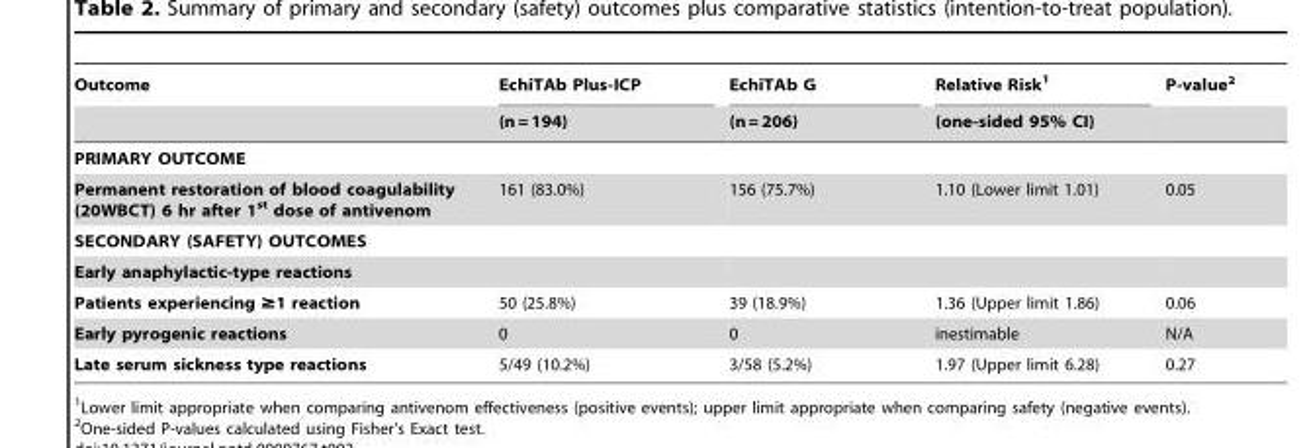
<table><thead><tr><td rowspan="2">Outcome</td><td rowspan="2">EchiTAb Plus-ICP (n = 194)</td><td rowspan="2">EchiTAb G (n = 206)</td><td rowspan="2">Relative Risk<sup>1</sup> (one-sided 95% CI)</td><td rowspan="2">P-value<sup>2</sup></td></tr><tr></tr></thead><tbody><tr><td colspan="5">PRIMARY OUTCOME</td></tr><tr><td>Permanent restoration of blood coagulability (20WBCT) 6 hr after 1<sup>st</sup> dose of antivenom</td><td>161 (83.0%)</td><td>156 (75.7%)</td><td>1.10 (Lower limit 1.01)</td><td>0.05</td></tr><tr><td colspan="5">SECONDARY (SAFETY) OUTCOMES</td></tr><tr><td colspan="5">Early anaphylactic-type reactions</td></tr><tr><td>Patients experiencing ≥1 reaction</td><td>50 (25.8%)</td><td>39 (18.9%)</td><td>1.36 (Upper limit 1.86)</td><td>0.06</td></tr><tr><td>Early pyrogenic reactions</td><td>0</td><td>0</td><td>inestimable</td><td>N/A</td></tr><tr><td>Late serum sickness type reactions</td><td>5/49 (10.2%)</td><td>3/58 (5.2%)</td><td>1.97 (Upper limit 6.28)</td><td>0.27</td></tr></tbody></table>